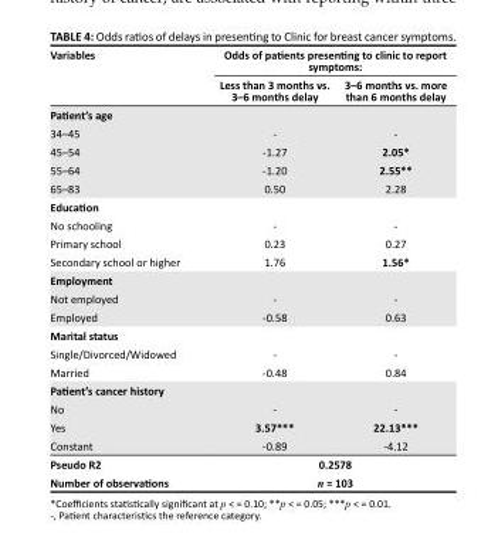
<table><thead><tr><td rowspan="2">Variables</td><td colspan="2">Odds of patients presenting to clinic to report symptoms:</td></tr><tr><td>Less than 3 months vs. 3–6 months delay</td><td>3–6 months vs. more than 6 months delay</td></tr></thead><tbody><tr><td colspan="3">Patient’s age</td></tr><tr><td>34–45</td><td>-</td><td>-</td></tr><tr><td>45–54</td><td>-1.27</td><td>2.05*</td></tr><tr><td>55–64</td><td>-1.20</td><td>2.55**</td></tr><tr><td>65–83</td><td>0.50</td><td>2.28</td></tr><tr><td colspan="3">Education</td></tr><tr><td>No schooling</td><td>-</td><td>-</td></tr><tr><td>Primary school</td><td>0.23</td><td>0.27</td></tr><tr><td>Secondary school or higher</td><td>1.76</td><td>1.56*</td></tr><tr><td colspan="3">Employment</td></tr><tr><td>Not employed</td><td>-</td><td>-</td></tr><tr><td>Employed</td><td>-0.58</td><td>0.63</td></tr><tr><td colspan="3">Marital status</td></tr><tr><td>Single/Divorced/Widowed</td><td>-</td><td>-</td></tr><tr><td>Married</td><td>-0.48</td><td>0.84</td></tr><tr><td colspan="3">Patient’s cancer history</td></tr><tr><td>No</td><td>-</td><td>-</td></tr><tr><td>Yes</td><td>3.57***</td><td>22.13***</td></tr><tr><td>Constant</td><td>-0.89</td><td>-4.12</td></tr><tr><td>Pseudo R2</td><td colspan="2">0.2578</td></tr><tr><td>Number of observations</td><td colspan="2">n = 103</td></tr></tbody></table>